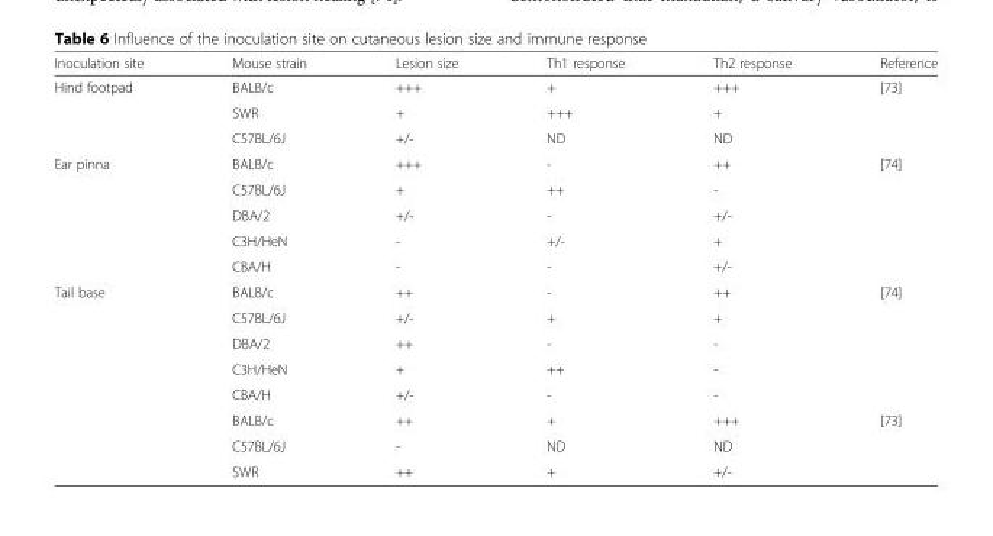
<table><thead><tr><td>Inoculation site</td><td>Mouse strain</td><td>Lesion size</td><td>Th1 response</td><td>Th2 response</td><td>Reference</td></tr></thead><tbody><tr><td rowspan="3">Hind footpad</td><td>BALB/c</td><td>+++</td><td>+</td><td>+++</td><td rowspan="3">[73]</td></tr><tr><td>SWR</td><td>+</td><td>+++</td><td>+</td></tr><tr><td>C57BL/6J</td><td>+/-</td><td>ND</td><td>ND</td></tr><tr><td rowspan="5">Ear pinna</td><td>BALB/c</td><td>+++</td><td>-</td><td>++</td><td rowspan="5">[74]</td></tr><tr><td>C57BL/6J</td><td>+</td><td>++</td><td>-</td></tr><tr><td>DBA/2</td><td>+/-</td><td>-</td><td>+/-</td></tr><tr><td>C3H/HeN</td><td>-</td><td>+/-</td><td>+</td></tr><tr><td>CBA/H</td><td>-</td><td>-</td><td>+/-</td></tr><tr><td rowspan="8">Tail base</td><td>BALB/c</td><td>++</td><td>-</td><td>++</td><td rowspan="5">[74]</td></tr><tr><td>C57BL/6J</td><td>+/-</td><td>+</td><td>+</td></tr><tr><td>DBA/2</td><td>++</td><td>-</td><td>-</td></tr><tr><td>C3H/HeN</td><td>+</td><td>++</td><td>-</td></tr><tr><td>CBA/H</td><td>+/-</td><td>-</td><td>-</td></tr><tr><td>BALB/c</td><td>++</td><td>+</td><td>+++</td><td rowspan="3">[73]</td></tr><tr><td>C57BL/6J</td><td>-</td><td>ND</td><td>ND</td></tr><tr><td>SWR</td><td>++</td><td>+</td><td>+/-</td></tr></tbody></table>